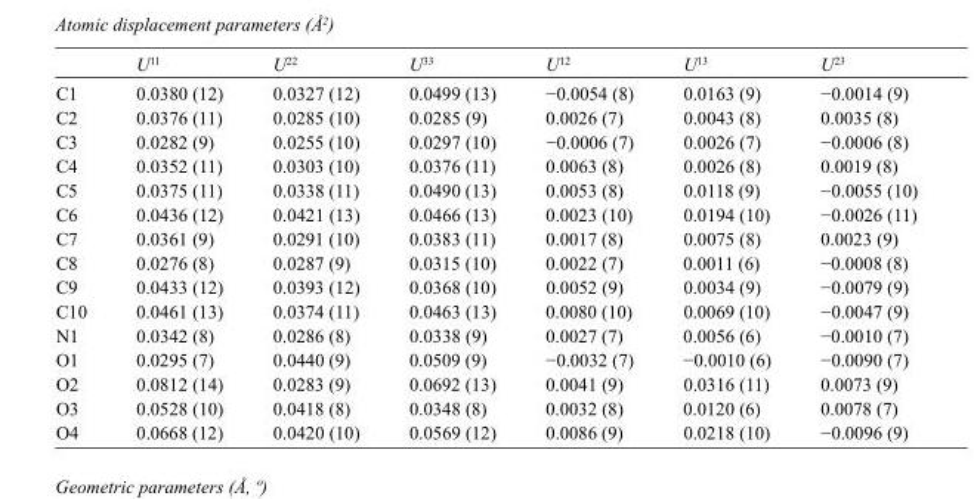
<table><thead><tr><td></td><td>U<sup>11</sup></td><td>U<sup>22</sup></td><td>U<sup>33</sup></td><td>U<sup>12</sup></td><td>U<sup>13</sup></td><td>U<sup>23</sup></td></tr></thead><tbody><tr><td>C1</td><td>0.0380 (12)</td><td>0.0327 (12)</td><td>0.0499 (13)</td><td>−0.0054 (8)</td><td>0.0163 (9)</td><td>−0.0014 (9)</td></tr><tr><td>C2</td><td>0.0376 (11)</td><td>0.0285 (10)</td><td>0.0285 (9)</td><td>0.0026 (7)</td><td>0.0043 (8)</td><td>0.0035 (8)</td></tr><tr><td>C3</td><td>0.0282 (9)</td><td>0.0255 (10)</td><td>0.0297 (10)</td><td>−0.0006 (7)</td><td>0.0026 (7)</td><td>−0.0006 (8)</td></tr><tr><td>C4</td><td>0.0352 (11)</td><td>0.0303 (10)</td><td>0.0376 (11)</td><td>0.0063 (8)</td><td>0.0026 (8)</td><td>0.0019 (8)</td></tr><tr><td>C5</td><td>0.0375 (11)</td><td>0.0338 (11)</td><td>0.0490 (13)</td><td>0.0053 (8)</td><td>0.0118 (9)</td><td>−0.0055 (10)</td></tr><tr><td>C6</td><td>0.0436 (12)</td><td>0.0421 (13)</td><td>0.0466 (13)</td><td>0.0023 (10)</td><td>0.0194 (10)</td><td>−0.0026 (11)</td></tr><tr><td>C7</td><td>0.0361 (9)</td><td>0.0291 (10)</td><td>0.0383 (11)</td><td>0.0017 (8)</td><td>0.0075 (8)</td><td>0.0023 (9)</td></tr><tr><td>C8</td><td>0.0276 (8)</td><td>0.0287 (9)</td><td>0.0315 (10)</td><td>0.0022 (7)</td><td>0.0011 (6)</td><td>−0.0008 (8)</td></tr><tr><td>C9</td><td>0.0433 (12)</td><td>0.0393 (12)</td><td>0.0368 (10)</td><td>0.0052 (9)</td><td>0.0034 (9)</td><td>−0.0079 (9)</td></tr><tr><td>C10</td><td>0.0461 (13)</td><td>0.0374 (11)</td><td>0.0463 (13)</td><td>0.0080 (10)</td><td>0.0069 (10)</td><td>−0.0047 (9)</td></tr><tr><td>N1</td><td>0.0342 (8)</td><td>0.0286 (8)</td><td>0.0338 (9)</td><td>0.0027 (7)</td><td>0.0056 (6)</td><td>−0.0010 (7)</td></tr><tr><td>O1</td><td>0.0295 (7)</td><td>0.0440 (9)</td><td>0.0509 (9)</td><td>−0.0032 (7)</td><td>−0.0010 (6)</td><td>−0.0090 (7)</td></tr><tr><td>O2</td><td>0.0812 (14)</td><td>0.0283 (9)</td><td>0.0692 (13)</td><td>0.0041 (9)</td><td>0.0316 (11)</td><td>0.0073 (9)</td></tr><tr><td>O3</td><td>0.0528 (10)</td><td>0.0418 (8)</td><td>0.0348 (8)</td><td>0.0032 (8)</td><td>0.0120 (6)</td><td>0.0078 (7)</td></tr><tr><td>O4</td><td>0.0668 (12)</td><td>0.0420 (10)</td><td>0.0569 (12)</td><td>0.0086 (9)</td><td>0.0218 (10)</td><td>−0.0096 (9)</td></tr></tbody></table>